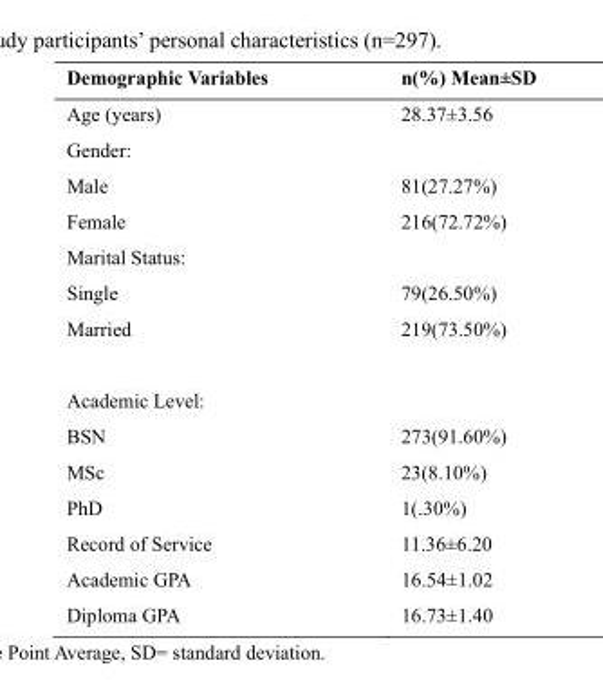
<table><thead><tr><td>Demographic Variables</td><td>n(%) Mean±SD</td></tr></thead><tbody><tr><td>Age (years)</td><td>28.37±3.56</td></tr><tr><td colspan="2">Gender:</td></tr><tr><td>Male</td><td>81(27.27%)</td></tr><tr><td>Female</td><td>216(72.72%)</td></tr><tr><td colspan="2">Marital Status:</td></tr><tr><td>Single</td><td>79(26.50%)</td></tr><tr><td>Married</td><td>219(73.50%)</td></tr><tr><td colspan="2">Academic Level:</td></tr><tr><td>BSN</td><td>273(91.60%)</td></tr><tr><td>MSc</td><td>23(8.10%)</td></tr><tr><td>PhD</td><td>1(.30%)</td></tr><tr><td>Record of Service</td><td>11.36±6.20</td></tr><tr><td>Academic GPA</td><td>16.54±1.02</td></tr><tr><td>Diploma GPA</td><td>16.73±1.40</td></tr></tbody></table>